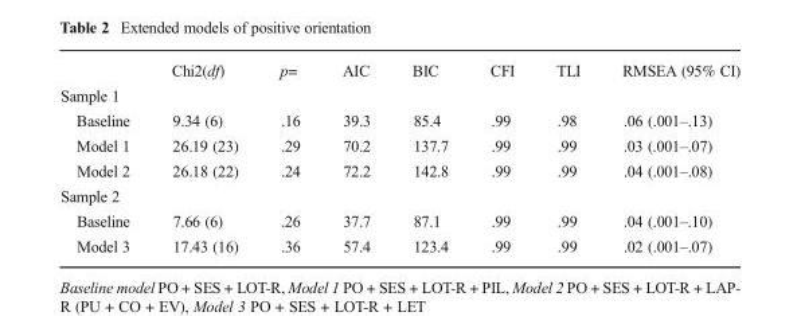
<table><thead><tr><td></td><td>Chi2(df)</td><td>p=</td><td>AIC</td><td>BIC</td><td>CFI</td><td>TLI</td><td>RMSEA (95% CI)</td></tr></thead><tbody><tr><td colspan="8">Sample 1</td></tr><tr><td>Baseline</td><td>9.34 (6)</td><td>.16</td><td>39.3</td><td>85.4</td><td>.99</td><td>.98</td><td>.06 (.001–.13)</td></tr><tr><td>Model 1</td><td>26.19 (23)</td><td>.29</td><td>70.2</td><td>137.7</td><td>.99</td><td>.99</td><td>.03 (.001–.07)</td></tr><tr><td>Model 2</td><td>26.18 (22)</td><td>.24</td><td>72.2</td><td>142.8</td><td>.99</td><td>.99</td><td>.04 (.001–.08)</td></tr><tr><td colspan="8">Sample 2</td></tr><tr><td>Baseline</td><td>7.66 (6)</td><td>.26</td><td>37.7</td><td>87.1</td><td>.99</td><td>.99</td><td>.04 (.001–.10)</td></tr><tr><td>Model 3</td><td>17.43 (16)</td><td>.36</td><td>57.4</td><td>123.4</td><td>.99</td><td>.99</td><td>.02 (.001–.07)</td></tr></tbody></table>